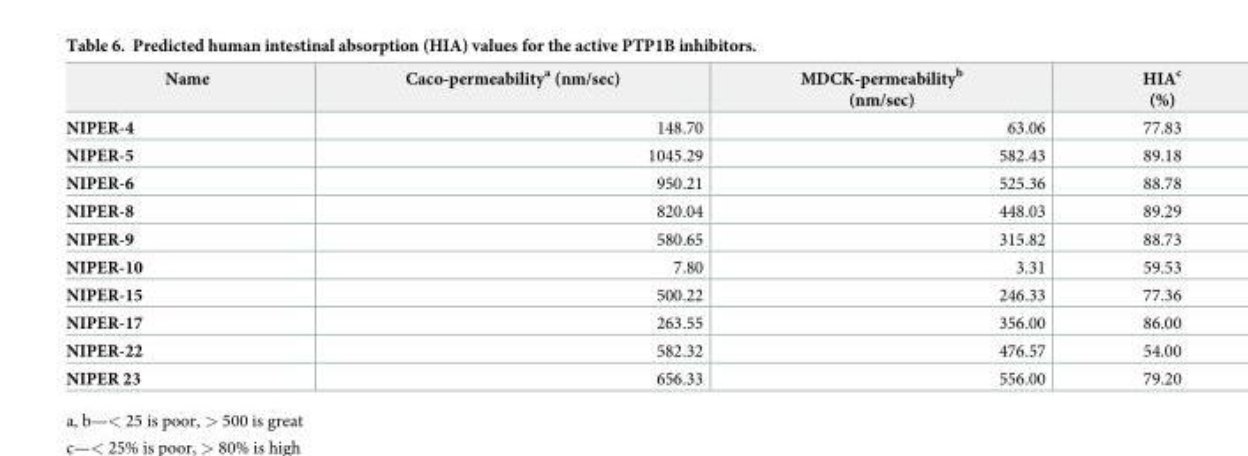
<table><thead><tr><td>Name</td><td>Caco-permeability<sup>a</sup> (nm/sec)</td><td>MDCK-permeability<sup>b</sup> (nm/sec)</td><td>HIA<sup>c</sup> (%)</td></tr></thead><tbody><tr><td>NIPER-4</td><td>148.70</td><td>63.06</td><td>77.83</td></tr><tr><td>NIPER-5</td><td>1045.29</td><td>582.43</td><td>89.18</td></tr><tr><td>NIPER-6</td><td>950.21</td><td>525.36</td><td>88.78</td></tr><tr><td>NIPER-8</td><td>820.04</td><td>448.03</td><td>89.29</td></tr><tr><td>NIPER-9</td><td>580.65</td><td>315.82</td><td>88.73</td></tr><tr><td>NIPER-10</td><td>7.80</td><td>3.31</td><td>59.53</td></tr><tr><td>NIPER-15</td><td>500.22</td><td>246.33</td><td>77.36</td></tr><tr><td>NIPER-17</td><td>263.55</td><td>356.00</td><td>86.00</td></tr><tr><td>NIPER-22</td><td>582.32</td><td>476.57</td><td>54.00</td></tr><tr><td>NIPER 23</td><td>656.33</td><td>556.00</td><td>79.20</td></tr></tbody></table>